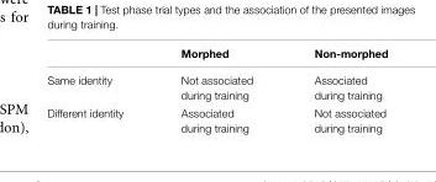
<table><thead><tr><td></td><td>Morphed</td><td>Non-morphed</td></tr></thead><tbody><tr><td>Same identity</td><td>Not associated during training</td><td>Associated during training</td></tr><tr><td>Different identity</td><td>Associated during training</td><td>Not associated during training</td></tr></tbody></table>